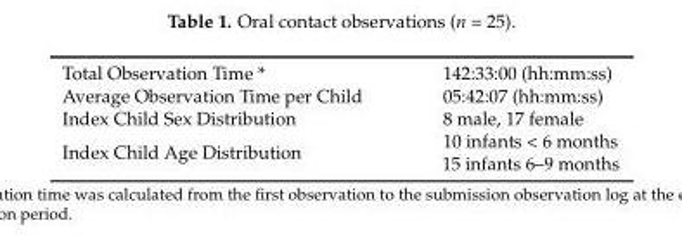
<table><tbody><tr><td>Total Observation Time *</td><td>142:33:00 (hh:mm:ss)</td></tr><tr><td>Average Observation Time per Child</td><td>05:42:07 (hh:mm:ss)</td></tr><tr><td>Index Child Sex Distribution</td><td>8 male, 17 female</td></tr><tr><td>Index Child Age Distribution</td><td>10 infants &lt; 6 months 15 infants 6–9 months</td></tr></tbody></table>